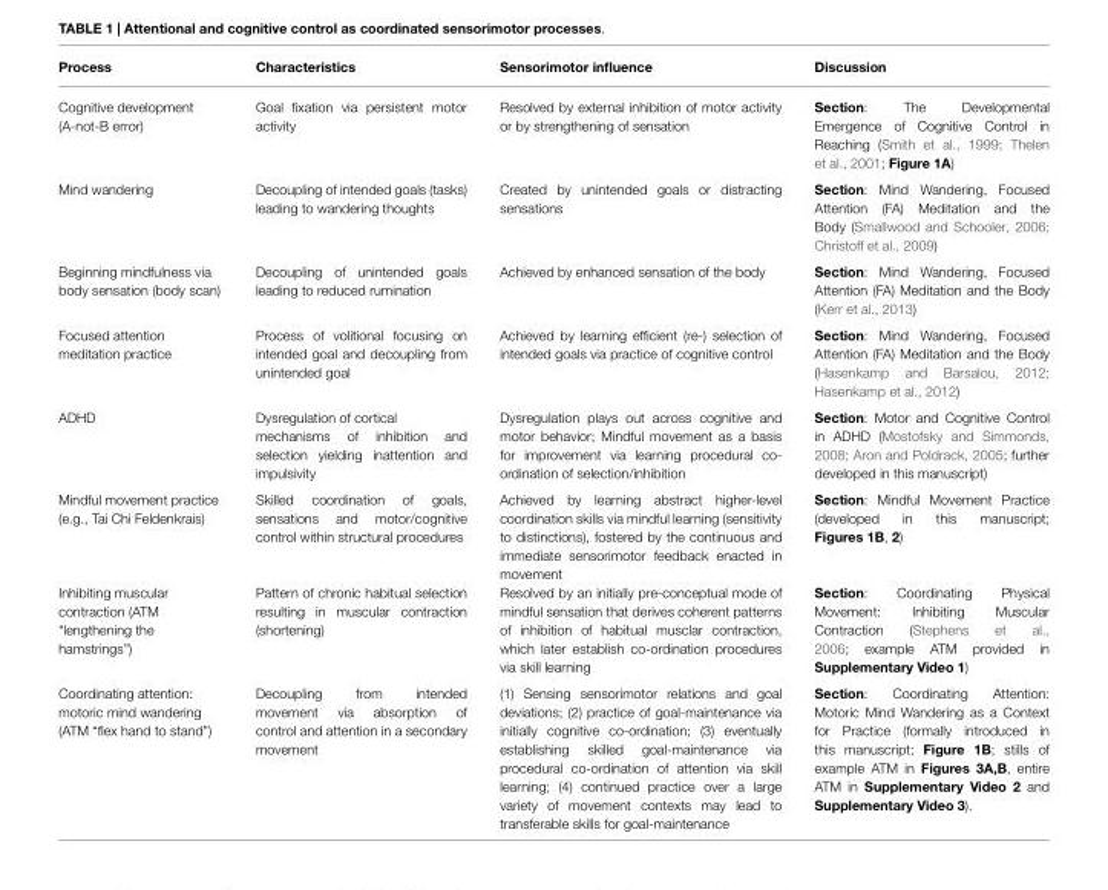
<table><thead><tr><td>Process</td><td>Characteristics</td><td>Sensorimotor influence</td><td>Discussion</td></tr></thead><tbody><tr><td>Cognitive development (A-not-B error)</td><td>Goal fixation via persistent motor activity</td><td>Resolved by external inhibition of motor activity or by strengthening of sensation</td><td>Section: The Developmental Emergence of Cognitive Control in Reaching (Smith et al., 1999; Thelen et al., 2001; Figure 1A)</td></tr><tr><td>Mind wandering</td><td>Decoupling of intended goals (tasks) leading to wandering thoughts</td><td>Created by unintended goals or distracting sensations</td><td>Section: Mind Wandering, Focused Attention (FA) Meditation and the Body (Smallwood and Schooler, 2006; Christoff et al., 2009)</td></tr><tr><td>Beginning mindfulness via body sensation (body scan)</td><td>Decoupling of unintended goals leading to reduced rumination</td><td>Achieved by enhanced sensation of the body</td><td>Section: Mind Wandering, Focused Attention (FA) Meditation and the Body (Kerr et al., 2013)</td></tr><tr><td>Focused attention meditation practice</td><td>Process of volitional focusing on intended goal and decoupling from unintended goal</td><td>Achieved by learning efficient (re-) selection of intended goals via practice of cognitive control</td><td>Section: Mind Wandering, Focused Attention (FA) Meditation and the Body (Hasenkamp and Barsalou, 2012; Hasenkamp et al., 2012)</td></tr><tr><td>ADHD</td><td>Dysregulation of cortical mechanisms of inhibition and selection yielding inattention and impulsivity</td><td>Dysregulation plays out across cognitive and motor behavior; Mindful movement as a basis for improvement via learning procedural co- ordination of selection/inhibition</td><td>Section: Motor and Cognitive Control in ADHD (Mostofsky and Simmonds, 2008; Aron and Poldrack, 2005; further developed in this manuscript)</td></tr><tr><td>Mindful movement practice (e.g., Tai Chi Feldenkrais)</td><td>Skilled coordination of goals, sensations and motor/cognitive control within structural procedures</td><td>Achieved by learning abstract higher-level coordination skills via mindful learning (sensitivity to distinctions), fostered by the continuous and immediate sensorimotor feedback enacted in movement</td><td>Section: Mindful Movement Practice (developed in this manuscript; Figures 1B, 2)</td></tr><tr><td>Inhibiting muscular contraction (ATM “lengthening the hamstrings”)</td><td>Pattern of chronic habitual selection resulting in muscular contraction (shortening)</td><td>Resolved by an initially pre-conceptual mode of mindful sensation that derives coherent patterns of inhibition of habitual musclar contraction, which later establish co-ordination procedures via skill learning</td><td>Section: Coordinating Physical Movement: Inhibiting Muscular Contraction (Stephens et al., 2006; example ATM provided in Supplementary Video 1)</td></tr><tr><td>Coordinating attention: motoric mind wandering (ATM “flex hand to stand”)</td><td>Decoupling from intended movement via absorption of control and attention in a secondary movement</td><td>(1) Sensing sensorimotor relations and goal deviations; (2) practice of goal-maintenance via initially cognitive co-ordination; (3) eventually establishing skilled goal-maintenance via procedural co-ordination of attention via skill learning; (4) continued practice over a large variety of movement contexts may lead to transferable skills for goal-maintenance</td><td>Section: Coordinating Attention: Motoric Mind Wandering as a Context for Practice (formally introduced in this manuscript; Figure 1B; stills of example ATM in Figures 3A,B, entire ATM in Supplementary Video 2 and Supplementary Video 3).</td></tr></tbody></table>